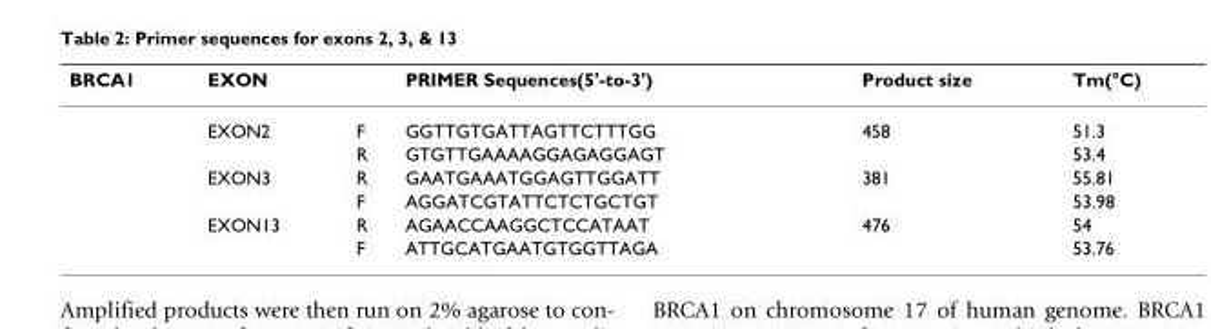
<table><thead><tr><td rowspan="2">BRCA1</td><td colspan="2">EXON</td><td rowspan="2">PRIMER Sequences(5&#x27;-to-3&#x27;) GGTTGTGATTAGTTCTTTGG</td><td rowspan="2">Product size 458</td><td rowspan="2">Tm(°C) 51.3</td></tr><tr><td>EXON2</td><td>F</td></tr></thead><tbody><tr><td></td><td></td><td>R</td><td>GTGTTGAAAAGGAGAGGAGT</td><td></td><td>53.4</td></tr><tr><td></td><td>EXON3</td><td>R</td><td>GAATGAAATGGAGTTGGATT</td><td>381</td><td>55.81</td></tr><tr><td></td><td></td><td>F</td><td>AGGATCGTATTCTCTGCTGT</td><td></td><td>53.98</td></tr><tr><td></td><td>EXON13</td><td>R</td><td>AGAACCAAGGCTCCATAAT</td><td>476</td><td>54</td></tr><tr><td></td><td></td><td>F</td><td>ATTGCATGAATGTGGTTAGA</td><td></td><td>53.76</td></tr></tbody></table>